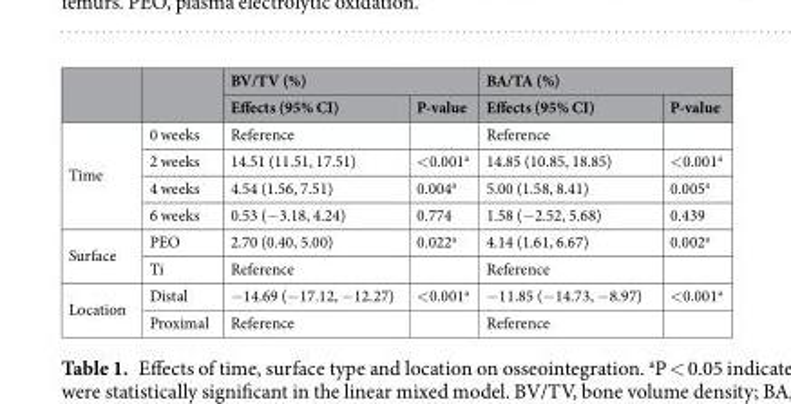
<table><thead><tr><td rowspan="2"></td><td rowspan="2"></td><td colspan="2">BV/TV (%)</td><td colspan="2">BA/TA (%)</td></tr><tr><td>Effects (95% CI)</td><td>P-value</td><td>Effects (95% CI)</td><td>P-value</td></tr></thead><tbody><tr><td rowspan="4">Time</td><td>0 weeks</td><td>Reference</td><td></td><td>Reference</td><td></td></tr><tr><td>2 weeks</td><td>14.51 (11.51, 17.51)</td><td>&lt;0.001<sup>a</sup></td><td>14.85 (10.85, 18.85)</td><td>&lt;0.001<sup>a</sup></td></tr><tr><td>4 weeks</td><td>4.54 (1.56, 7.51)</td><td>0.004<sup>a</sup></td><td>5.00 (1.58, 8.41)</td><td>0.005<sup>a</sup></td></tr><tr><td>6 weeks</td><td>0.53 (−3.18, 4.24)</td><td>0.774</td><td>1.58 (−2.52, 5.68)</td><td>0.439</td></tr><tr><td rowspan="2">Surface</td><td>PEO</td><td>2.70 (0.40, 5.00)</td><td>0.022<sup>a</sup></td><td>4.14 (1.61, 6.67)</td><td>0.002<sup>a</sup></td></tr><tr><td>Ti</td><td>Reference</td><td></td><td>Reference</td><td></td></tr><tr><td rowspan="2">Location</td><td>Distal</td><td>−14.69 (−17.12, −12.27)</td><td>&lt;0.001<sup>a</sup></td><td>−11.85 (−14.73, −8.97)</td><td>&lt;0.001<sup>a</sup></td></tr><tr><td>Proximal</td><td>Reference</td><td></td><td>Reference</td><td></td></tr></tbody></table>